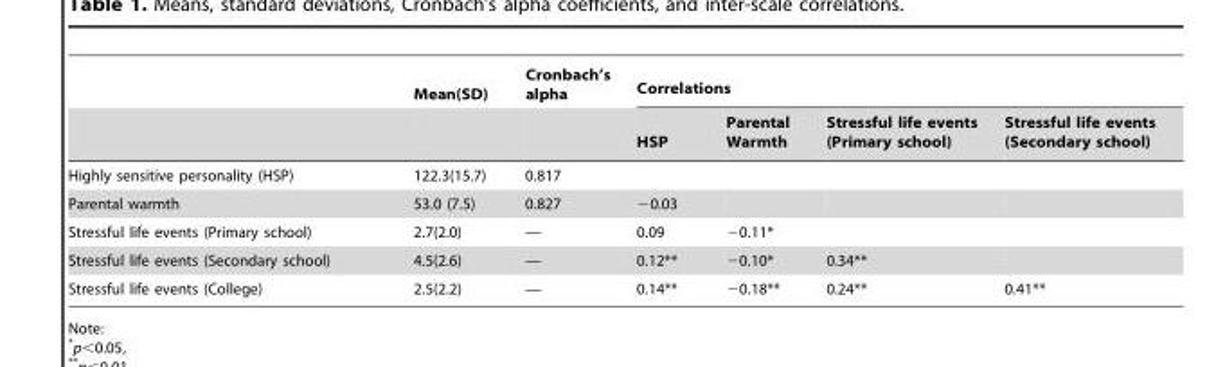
<table><thead><tr><td rowspan="2"></td><td rowspan="2">Mean(SD)</td><td rowspan="2">Cronbach’s alpha</td><td colspan="4">Correlations</td></tr><tr><td>HSP</td><td>Parental Warmth</td><td>Stressful life events (Primary school)</td><td>Stressful life events (Secondary school)</td></tr></thead><tbody><tr><td>Highly sensitive personality (HSP)</td><td>122.3(15.7)</td><td>0.817</td><td></td><td></td><td></td><td></td></tr><tr><td>Parental warmth</td><td>53.0 (7.5)</td><td>0.827</td><td>−0.03</td><td></td><td></td><td></td></tr><tr><td>Stressful life events (Primary school)</td><td>2.7(2.0)</td><td>—</td><td>0.09</td><td>−0.11*</td><td></td><td></td></tr><tr><td>Stressful life events (Secondary school)</td><td>4.5(2.6)</td><td>—</td><td>0.12**</td><td>−0.10*</td><td>0.34**</td><td></td></tr><tr><td>Stressful life events (College)</td><td>2.5(2.2)</td><td>—</td><td>0.14**</td><td>−0.18**</td><td>0.24**</td><td>0.41**</td></tr></tbody></table>